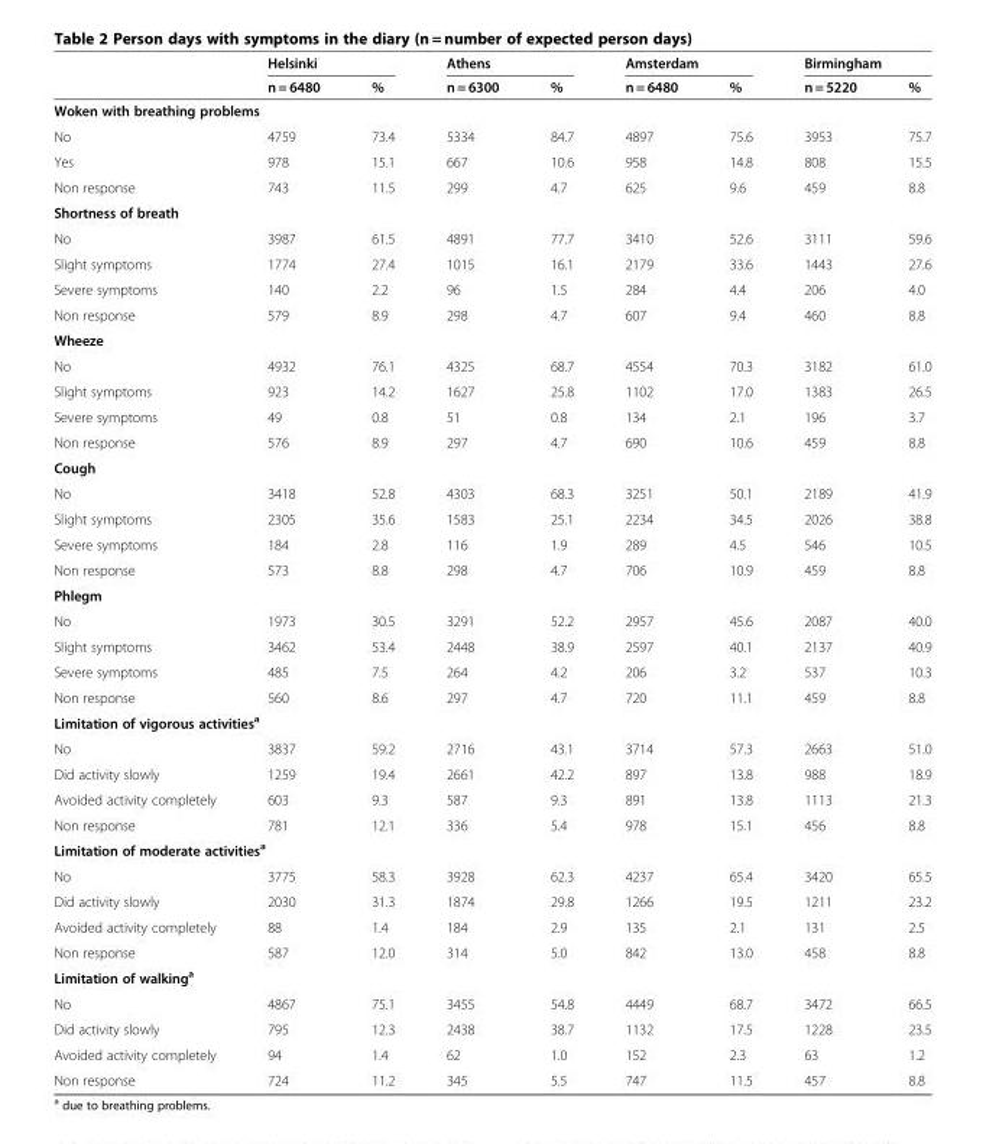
<table><thead><tr><td rowspan="2"></td><td colspan="2">Helsinki</td><td colspan="2">Athens</td><td colspan="2">Amsterdam</td><td colspan="2">Birmingham</td></tr><tr><td>n = 6480</td><td>%</td><td>n = 6300</td><td>%</td><td>n = 6480</td><td>%</td><td>n = 5220</td><td>%</td></tr></thead><tbody><tr><td colspan="9">Woken with breathing problems</td></tr><tr><td>No</td><td>4759</td><td>73.4</td><td>5334</td><td>84.7</td><td>4897</td><td>75.6</td><td>3953</td><td>75.7</td></tr><tr><td>Yes</td><td>978</td><td>15.1</td><td>667</td><td>10.6</td><td>958</td><td>14.8</td><td>808</td><td>15.5</td></tr><tr><td>Non response</td><td>743</td><td>11.5</td><td>299</td><td>4.7</td><td>625</td><td>9.6</td><td>459</td><td>8.8</td></tr><tr><td colspan="9">Shortness of breath</td></tr><tr><td>No</td><td>3987</td><td>61.5</td><td>4891</td><td>77.7</td><td>3410</td><td>52.6</td><td>3111</td><td>59.6</td></tr><tr><td>Slight symptoms</td><td>1774</td><td>27.4</td><td>1015</td><td>16.1</td><td>2179</td><td>33.6</td><td>1443</td><td>27.6</td></tr><tr><td>Severe symptoms</td><td>140</td><td>2.2</td><td>96</td><td>1.5</td><td>284</td><td>4.4</td><td>206</td><td>4.0</td></tr><tr><td>Non response</td><td>579</td><td>8.9</td><td>298</td><td>4.7</td><td>607</td><td>9.4</td><td>460</td><td>8.8</td></tr><tr><td colspan="9">Wheeze</td></tr><tr><td>No</td><td>4932</td><td>76.1</td><td>4325</td><td>68.7</td><td>4554</td><td>70.3</td><td>3182</td><td>61.0</td></tr><tr><td>Slight symptoms</td><td>923</td><td>14.2</td><td>1627</td><td>25.8</td><td>1102</td><td>17.0</td><td>1383</td><td>26.5</td></tr><tr><td>Severe symptoms</td><td>49</td><td>0.8</td><td>51</td><td>0.8</td><td>134</td><td>2.1</td><td>196</td><td>3.7</td></tr><tr><td>Non response</td><td>576</td><td>8.9</td><td>297</td><td>4.7</td><td>690</td><td>10.6</td><td>459</td><td>8.8</td></tr><tr><td colspan="9">Cough</td></tr><tr><td>No</td><td>3418</td><td>52.8</td><td>4303</td><td>68.3</td><td>3251</td><td>50.1</td><td>2189</td><td>41.9</td></tr><tr><td>Slight symptoms</td><td>2305</td><td>35.6</td><td>1583</td><td>25.1</td><td>2234</td><td>34.5</td><td>2026</td><td>38.8</td></tr><tr><td>Severe symptoms</td><td>184</td><td>2.8</td><td>116</td><td>1.9</td><td>289</td><td>4.5</td><td>546</td><td>10.5</td></tr><tr><td>Non response</td><td>573</td><td>8.8</td><td>298</td><td>4.7</td><td>706</td><td>10.9</td><td>459</td><td>8.8</td></tr><tr><td colspan="9">Phlegm</td></tr><tr><td>No</td><td>1973</td><td>30.5</td><td>3291</td><td>52.2</td><td>2957</td><td>45.6</td><td>2087</td><td>40.0</td></tr><tr><td>Slight symptoms</td><td>3462</td><td>53.4</td><td>2448</td><td>38.9</td><td>2597</td><td>40.1</td><td>2137</td><td>40.9</td></tr><tr><td>Severe symptoms</td><td>485</td><td>7.5</td><td>264</td><td>4.2</td><td>206</td><td>3.2</td><td>537</td><td>10.3</td></tr><tr><td>Non response</td><td>560</td><td>8.6</td><td>297</td><td>4.7</td><td>720</td><td>11.1</td><td>459</td><td>8.8</td></tr><tr><td colspan="9">Limitation of vigorous activities<sup>a</sup></td></tr><tr><td>No</td><td>3837</td><td>59.2</td><td>2716</td><td>43.1</td><td>3714</td><td>57.3</td><td>2663</td><td>51.0</td></tr><tr><td>Did activity slowly</td><td>1259</td><td>19.4</td><td>2661</td><td>42.2</td><td>897</td><td>13.8</td><td>988</td><td>18.9</td></tr><tr><td>Avoided activity completely</td><td>603</td><td>9.3</td><td>587</td><td>9.3</td><td>891</td><td>13.8</td><td>1113</td><td>21.3</td></tr><tr><td>Non response</td><td>781</td><td>12.1</td><td>336</td><td>5.4</td><td>978</td><td>15.1</td><td>456</td><td>8.8</td></tr><tr><td colspan="9">Limitation of moderate activities<sup>a</sup></td></tr><tr><td>No</td><td>3775</td><td>58.3</td><td>3928</td><td>62.3</td><td>4237</td><td>65.4</td><td>3420</td><td>65.5</td></tr><tr><td>Did activity slowly</td><td>2030</td><td>31.3</td><td>1874</td><td>29.8</td><td>1266</td><td>19.5</td><td>1211</td><td>23.2</td></tr><tr><td>Avoided activity completely</td><td>88</td><td>1.4</td><td>184</td><td>2.9</td><td>135</td><td>2.1</td><td>131</td><td>2.5</td></tr><tr><td>Non response</td><td>587</td><td>12.0</td><td>314</td><td>5.0</td><td>842</td><td>13.0</td><td>458</td><td>8.8</td></tr><tr><td colspan="9">Limitation of walking<sup>a</sup></td></tr><tr><td>No</td><td>4867</td><td>75.1</td><td>3455</td><td>54.8</td><td>4449</td><td>68.7</td><td>3472</td><td>66.5</td></tr><tr><td>Did activity slowly</td><td>795</td><td>12.3</td><td>2438</td><td>38.7</td><td>1132</td><td>17.5</td><td>1228</td><td>23.5</td></tr><tr><td>Avoided activity completely</td><td>94</td><td>1.4</td><td>62</td><td>1.0</td><td>152</td><td>2.3</td><td>63</td><td>1.2</td></tr><tr><td>Non response</td><td>724</td><td>11.2</td><td>345</td><td>5.5</td><td>747</td><td>11.5</td><td>457</td><td>8.8</td></tr></tbody></table>